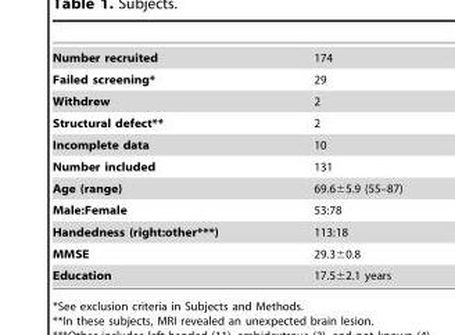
<table><tbody><tr><td>Number recruited</td><td>174</td></tr><tr><td>Failed screening*</td><td>29</td></tr><tr><td>Withdrew</td><td>2</td></tr><tr><td>Structural defect**</td><td>2</td></tr><tr><td>Incomplete data</td><td>10</td></tr><tr><td>Number included</td><td>131</td></tr><tr><td>Age (range)</td><td>69.6±5.9 (55–87)</td></tr><tr><td>Male:Female</td><td>53:78</td></tr><tr><td>Handedness (right:other***)</td><td>113:18</td></tr><tr><td>MMSE</td><td>29.3±0.8</td></tr><tr><td>Education</td><td>17.5±2.1 years</td></tr></tbody></table>